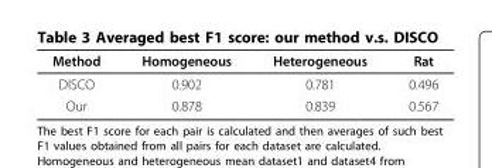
<table><thead><tr><td>Method</td><td>Homogeneous</td><td>Heterogeneous</td><td>Rat</td></tr></thead><tbody><tr><td>DISCO</td><td>0.902</td><td>0.781</td><td>0.496</td></tr><tr><td>Our</td><td>0.878</td><td>0.839</td><td>0.567</td></tr></tbody></table>